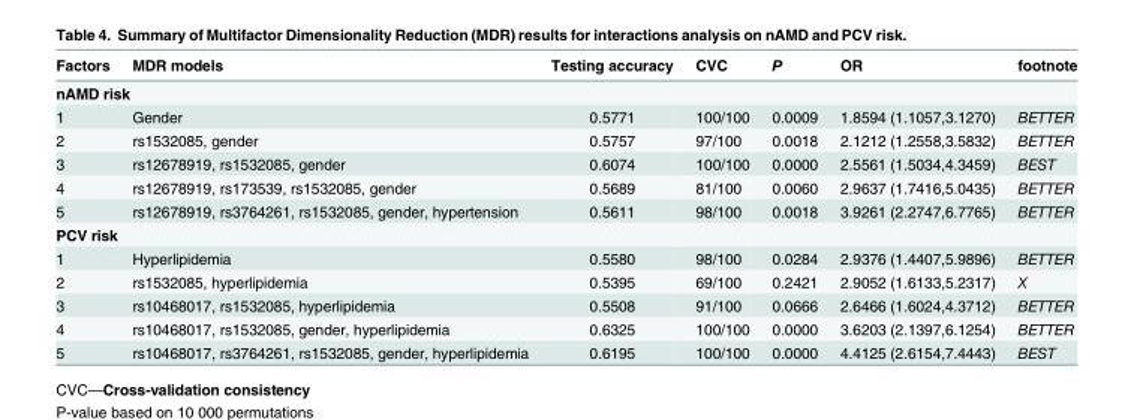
<table><thead><tr><td>Factors</td><td>MDR models</td><td>Testing accuracy</td><td>CVC</td><td>P</td><td>OR</td><td>footnote</td></tr></thead><tbody><tr><td colspan="7">nAMD risk</td></tr><tr><td>1</td><td>Gender</td><td>0.5771</td><td>100/100</td><td>0.0009</td><td>1.8594 (1.1057,3.1270)</td><td>BETTER</td></tr><tr><td>2</td><td>rs1532085, gender</td><td>0.5757</td><td>97/100</td><td>0.0018</td><td>2.1212 (1.2558,3.5832)</td><td>BETTER</td></tr><tr><td>3</td><td>rs12678919, rs1532085, gender</td><td>0.6074</td><td>100/100</td><td>0.0000</td><td>2.5561 (1.5034,4.3459)</td><td>BEST</td></tr><tr><td>4</td><td>rs12678919, rs173539, rs1532085, gender</td><td>0.5689</td><td>81/100</td><td>0.0060</td><td>2.9637 (1.7416,5.0435)</td><td>BETTER</td></tr><tr><td>5</td><td>rs12678919, rs3764261, rs1532085, gender, hypertension</td><td>0.5611</td><td>98/100</td><td>0.0018</td><td>3.9261 (2.2747,6.7765)</td><td>BETTER</td></tr><tr><td colspan="7">PCV risk</td></tr><tr><td>1</td><td>Hyperlipidemia</td><td>0.5580</td><td>98/100</td><td>0.0284</td><td>2.9376 (1.4407,5.9896)</td><td>BETTER</td></tr><tr><td>2</td><td>rs1532085, hyperlipidemia</td><td>0.5395</td><td>69/100</td><td>0.2421</td><td>2.9052 (1.6133,5.2317)</td><td>X</td></tr><tr><td>3</td><td>rs10468017, rs1532085, hyperlipidemia</td><td>0.5508</td><td>91/100</td><td>0.0666</td><td>2.6466 (1.6024,4.3712)</td><td>BETTER</td></tr><tr><td>4</td><td>rs10468017, rs1532085, gender, hyperlipidemia</td><td>0.6325</td><td>100/100</td><td>0.0000</td><td>3.6203 (2.1397,6.1254)</td><td>BETTER</td></tr><tr><td>5</td><td>rs10468017, rs3764261, rs1532085, gender, hyperlipidemia</td><td>0.6195</td><td>100/100</td><td>0.0000</td><td>4.4125 (2.6154,7.4443)</td><td>BEST</td></tr></tbody></table>